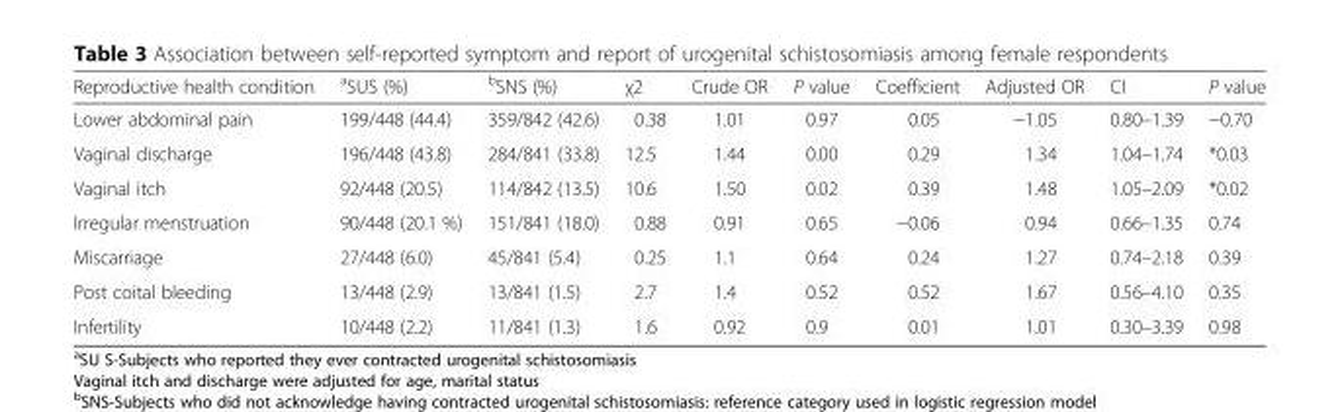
<table><thead><tr><td>Reproductive health condition</td><td><sup>a</sup>SUS (%)</td><td><sup>b</sup>SNS (%)</td><td>χ2</td><td>Crude OR</td><td>P value</td><td>Coefficient</td><td>Adjusted OR</td><td>CI</td><td>P value</td></tr></thead><tbody><tr><td>Lower abdominal pain</td><td>199/448 (44.4)</td><td>359/842 (42.6)</td><td>0.38</td><td>1.01</td><td>0.97</td><td>0.05</td><td>−1.05</td><td>0.80–1.39</td><td>−0.70</td></tr><tr><td>Vaginal discharge</td><td>196/448 (43.8)</td><td>284/841 (33.8)</td><td>12.5</td><td>1.44</td><td>0.00</td><td>0.29</td><td>1.34</td><td>1.04–1.74</td><td>*0.03</td></tr><tr><td>Vaginal itch</td><td>92/448 (20.5)</td><td>114/842 (13.5)</td><td>10.6</td><td>1.50</td><td>0.02</td><td>0.39</td><td>1.48</td><td>1.05–2.09</td><td>*0.02</td></tr><tr><td>Irregular menstruation</td><td>90/448 (20.1 %)</td><td>151/841 (18.0)</td><td>0.88</td><td>0.91</td><td>0.65</td><td>−0.06</td><td>0.94</td><td>0.66–1.35</td><td>0.74</td></tr><tr><td>Miscarriage</td><td>27/448 (6.0)</td><td>45/841 (5.4)</td><td>0.25</td><td>1.1</td><td>0.64</td><td>0.24</td><td>1.27</td><td>0.74–2.18</td><td>0.39</td></tr><tr><td>Post coital bleeding</td><td>13/448 (2.9)</td><td>13/841 (1.5)</td><td>2.7</td><td>1.4</td><td>0.52</td><td>0.52</td><td>1.67</td><td>0.56–4.10</td><td>0.35</td></tr><tr><td>Infertility</td><td>10/448 (2.2)</td><td>11/841 (1.3)</td><td>1.6</td><td>0.92</td><td>0.9</td><td>0.01</td><td>1.01</td><td>0.30–3.39</td><td>0.98</td></tr></tbody></table>